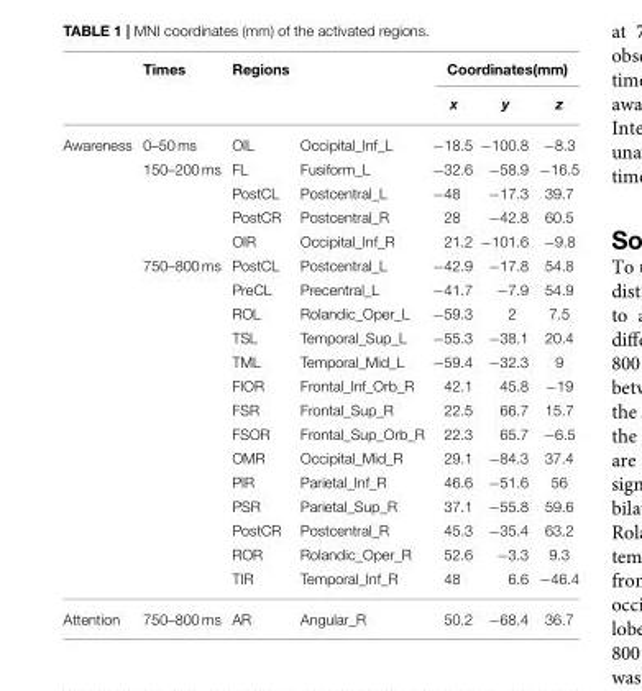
<table><thead><tr><td rowspan="2"></td><td rowspan="2">Times</td><td rowspan="2">Regions</td><td rowspan="2"></td><td colspan="3">Coordinates(mm)</td></tr><tr><td>x</td><td>y</td><td>z</td></tr></thead><tbody><tr><td rowspan="19">Awareness</td><td>0–50 ms</td><td>OIL</td><td>Occipital_Inf_L</td><td>−18.5</td><td>−100.8</td><td>−8.3</td></tr><tr><td>150–200 ms</td><td>FL</td><td>Fusiform_L</td><td>−32.6</td><td>−58.9</td><td>−16.5</td></tr><tr><td></td><td>PostCL</td><td>Postcentral_L</td><td>−48</td><td>−17.3</td><td>39.7</td></tr><tr><td></td><td>PostCR</td><td>Postcentral_R</td><td>28</td><td>−42.8</td><td>60.5</td></tr><tr><td></td><td>OIR</td><td>Occipital_Inf_R</td><td>21.2</td><td>−101.6</td><td>−9.8</td></tr><tr><td>750–800 ms</td><td>PostCL</td><td>Postcentral_L</td><td>−42.9</td><td>−17.8</td><td>54.8</td></tr><tr><td></td><td>PreCL</td><td>Precentral_L</td><td>−41.7</td><td>−7.9</td><td>54.9</td></tr><tr><td></td><td>ROL</td><td>Rolandic_Oper_L</td><td>−59.3</td><td>2</td><td>7.5</td></tr><tr><td></td><td>TSL</td><td>Temporal_Sup_L</td><td>−55.3</td><td>−38.1</td><td>20.4</td></tr><tr><td></td><td>TML</td><td>Temporal_Mid_L</td><td>−59.4</td><td>−32.3</td><td>9</td></tr><tr><td></td><td>FIOR</td><td>Frontal_Inf_Orb_R</td><td>42.1</td><td>45.8</td><td>−19</td></tr><tr><td></td><td>FSR</td><td>Frontal_Sup_R</td><td>22.5</td><td>66.7</td><td>15.7</td></tr><tr><td></td><td>FSOR</td><td>Frontal_Sup_Orb_R</td><td>22.3</td><td>65.7</td><td>−6.5</td></tr><tr><td></td><td>OMR</td><td>Occipital_Mid_R</td><td>29.1</td><td>−84.3</td><td>37.4</td></tr><tr><td></td><td>PIR</td><td>Parietal_Inf_R</td><td>46.6</td><td>−51.6</td><td>56</td></tr><tr><td></td><td>PSR</td><td>Parietal_Sup_R</td><td>37.1</td><td>−55.8</td><td>59.6</td></tr><tr><td></td><td>PostCR</td><td>Postcentral_R</td><td>45.3</td><td>−35.4</td><td>63.2</td></tr><tr><td></td><td>ROR</td><td>Rolandic_Oper_R</td><td>52.6</td><td>−3.3</td><td>9.3</td></tr><tr><td></td><td>TIR</td><td>Temporal_Inf_R</td><td>48</td><td>6.6</td><td>−46.4</td></tr><tr><td>Attention</td><td>750–800 ms</td><td>AR</td><td>Angular_R</td><td>50.2</td><td>−68.4</td><td>36.7</td></tr></tbody></table>